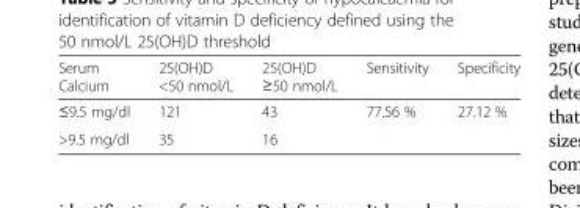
<table><thead><tr><td>Serum Calcium</td><td>25(OH)D &lt;50 nmol/L</td><td>25(OH)D ≥50 nmol/L</td><td>Sensitivity</td><td>Specificity</td></tr></thead><tbody><tr><td>≤9.5 mg/dl</td><td>121</td><td>43</td><td>77.56 %</td><td>27.12 %</td></tr><tr><td>&gt;9.5 mg/dl</td><td>35</td><td>16</td><td></td><td></td></tr></tbody></table>